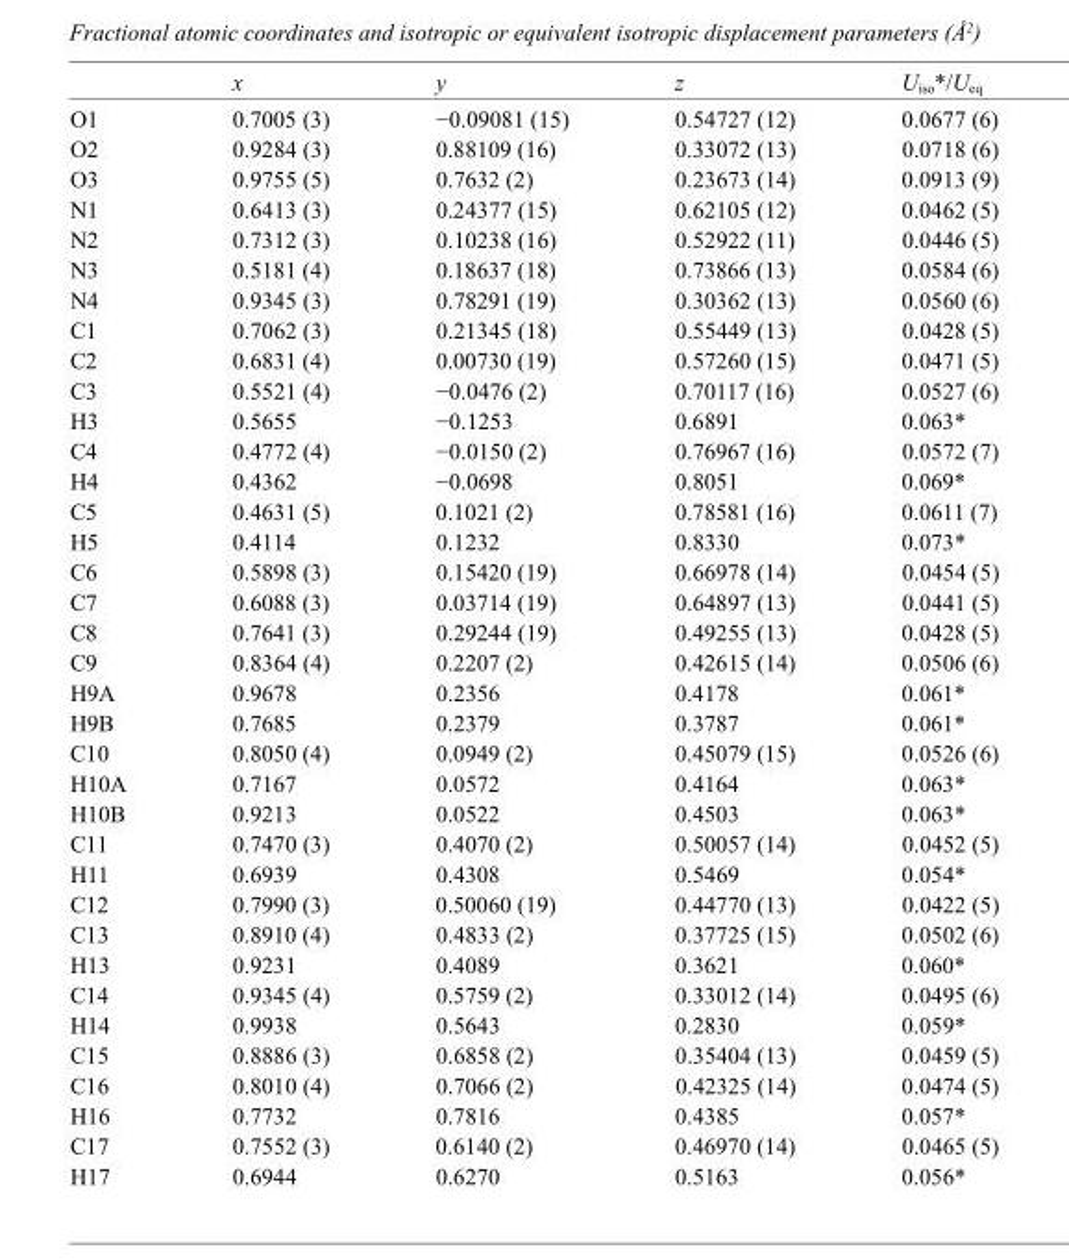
<table><thead><tr><td></td><td>x</td><td>y</td><td>z</td><td>U<sub>iso</sub>*/U<sub>eq</sub></td></tr></thead><tbody><tr><td>O1</td><td>0.7005 (3)</td><td>−0.09081 (15)</td><td>0.54727 (12)</td><td>0.0677 (6)</td></tr><tr><td>O2</td><td>0.9284 (3)</td><td>0.88109 (16)</td><td>0.33072 (13)</td><td>0.0718 (6)</td></tr><tr><td>O3</td><td>0.9755 (5)</td><td>0.7632 (2)</td><td>0.23673 (14)</td><td>0.0913 (9)</td></tr><tr><td>N1</td><td>0.6413 (3)</td><td>0.24377 (15)</td><td>0.62105 (12)</td><td>0.0462 (5)</td></tr><tr><td>N2</td><td>0.7312 (3)</td><td>0.10238 (16)</td><td>0.52922 (11)</td><td>0.0446 (5)</td></tr><tr><td>N3</td><td>0.5181 (4)</td><td>0.18637 (18)</td><td>0.73866 (13)</td><td>0.0584 (6)</td></tr><tr><td>N4</td><td>0.9345 (3)</td><td>0.78291 (19)</td><td>0.30362 (13)</td><td>0.0560 (6)</td></tr><tr><td>C1</td><td>0.7062 (3)</td><td>0.21345 (18)</td><td>0.55449 (13)</td><td>0.0428 (5)</td></tr><tr><td>C2</td><td>0.6831 (4)</td><td>0.00730 (19)</td><td>0.57260 (15)</td><td>0.0471 (5)</td></tr><tr><td>C3</td><td>0.5521 (4)</td><td>−0.0476 (2)</td><td>0.70117 (16)</td><td>0.0527 (6)</td></tr><tr><td>H3</td><td>0.5655</td><td>−0.1253</td><td>0.6891</td><td>0.063*</td></tr><tr><td>C4</td><td>0.4772 (4)</td><td>−0.0150 (2)</td><td>0.76967 (16)</td><td>0.0572 (7)</td></tr><tr><td>H4</td><td>0.4362</td><td>−0.0698</td><td>0.8051</td><td>0.069*</td></tr><tr><td>C5</td><td>0.4631 (5)</td><td>0.1021 (2)</td><td>0.78581 (16)</td><td>0.0611 (7)</td></tr><tr><td>H5</td><td>0.4114</td><td>0.1232</td><td>0.8330</td><td>0.073*</td></tr><tr><td>C6</td><td>0.5898 (3)</td><td>0.15420 (19)</td><td>0.66978 (14)</td><td>0.0454 (5)</td></tr><tr><td>C7</td><td>0.6088 (3)</td><td>0.03714 (19)</td><td>0.64897 (13)</td><td>0.0441 (5)</td></tr><tr><td>C8</td><td>0.7641 (3)</td><td>0.29244 (19)</td><td>0.49255 (13)</td><td>0.0428 (5)</td></tr><tr><td>C9</td><td>0.8364 (4)</td><td>0.2207 (2)</td><td>0.42615 (14)</td><td>0.0506 (6)</td></tr><tr><td>H9A</td><td>0.9678</td><td>0.2356</td><td>0.4178</td><td>0.061*</td></tr><tr><td>H9B</td><td>0.7685</td><td>0.2379</td><td>0.3787</td><td>0.061*</td></tr><tr><td>C10</td><td>0.8050 (4)</td><td>0.0949 (2)</td><td>0.45079 (15)</td><td>0.0526 (6)</td></tr><tr><td>H10A</td><td>0.7167</td><td>0.0572</td><td>0.4164</td><td>0.063*</td></tr><tr><td>H10B</td><td>0.9213</td><td>0.0522</td><td>0.4503</td><td>0.063*</td></tr><tr><td>C11</td><td>0.7470 (3)</td><td>0.4070 (2)</td><td>0.50057 (14)</td><td>0.0452 (5)</td></tr><tr><td>H11</td><td>0.6939</td><td>0.4308</td><td>0.5469</td><td>0.054*</td></tr><tr><td>C12</td><td>0.7990 (3)</td><td>0.50060 (19)</td><td>0.44770 (13)</td><td>0.0422 (5)</td></tr><tr><td>C13</td><td>0.8910 (4)</td><td>0.4833 (2)</td><td>0.37725 (15)</td><td>0.0502 (6)</td></tr><tr><td>H13</td><td>0.9231</td><td>0.4089</td><td>0.3621</td><td>0.060*</td></tr><tr><td>C14</td><td>0.9345 (4)</td><td>0.5759 (2)</td><td>0.33012 (14)</td><td>0.0495 (6)</td></tr><tr><td>H14</td><td>0.9938</td><td>0.5643</td><td>0.2830</td><td>0.059*</td></tr><tr><td>C15</td><td>0.8886 (3)</td><td>0.6858 (2)</td><td>0.35404 (13)</td><td>0.0459 (5)</td></tr><tr><td>C16</td><td>0.8010 (4)</td><td>0.7066 (2)</td><td>0.42325 (14)</td><td>0.0474 (5)</td></tr><tr><td>H16</td><td>0.7732</td><td>0.7816</td><td>0.4385</td><td>0.057*</td></tr><tr><td>C17</td><td>0.7552 (3)</td><td>0.6140 (2)</td><td>0.46970 (14)</td><td>0.0465 (5)</td></tr><tr><td>H17</td><td>0.6944</td><td>0.6270</td><td>0.5163</td><td>0.056*</td></tr></tbody></table>